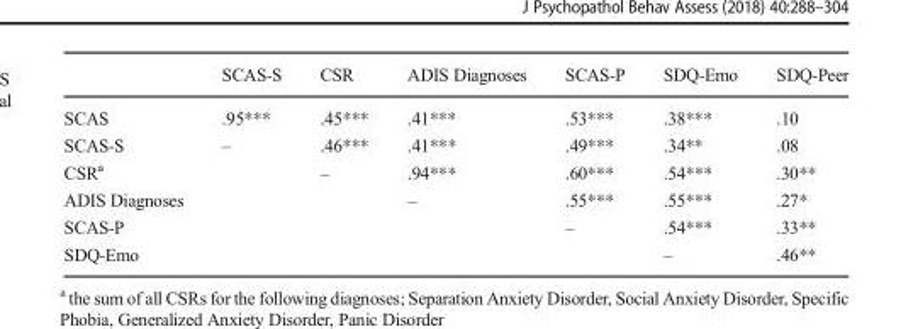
<table><thead><tr><td></td><td>SCAS-S</td><td>CSR</td><td>ADIS Diagnoses</td><td>SCAS-P</td><td>SDQ-Emo</td><td>SDQ-Peer</td></tr></thead><tbody><tr><td>SCAS</td><td>.95***</td><td>.45***</td><td>.41***</td><td>.53***</td><td>.38***</td><td>.10</td></tr><tr><td>SCAS-S</td><td>–</td><td>.46***</td><td>.41***</td><td>.49***</td><td>.34**</td><td>.08</td></tr><tr><td>CSR<sup>a</sup></td><td></td><td>–</td><td>.94***</td><td>.60***</td><td>.54***</td><td>.30**</td></tr><tr><td>ADIS Diagnoses</td><td></td><td></td><td>–</td><td>.55***</td><td>.55***</td><td>.27*</td></tr><tr><td>SCAS-P</td><td></td><td></td><td></td><td>–</td><td>.54***</td><td>.33**</td></tr><tr><td>SDQ-Emo</td><td></td><td></td><td></td><td></td><td>–</td><td>.46**</td></tr></tbody></table>